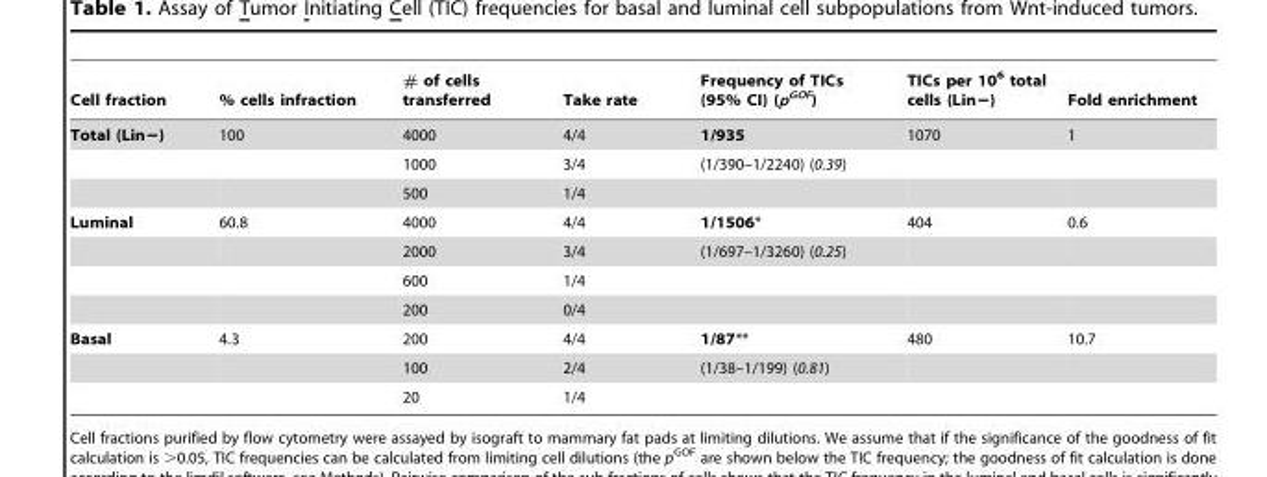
<table><thead><tr><td>Cell fraction</td><td>% cells infraction</td><td># of cells transferred</td><td>Take rate</td><td>Frequency of TICs (95% CI) (p<sup>GOF</sup>)</td><td>TICs per 10<sup>6</sup> total cells (Lin−)</td><td>Fold enrichment</td></tr></thead><tbody><tr><td rowspan="3">Total (Lin−)</td><td>100</td><td>4000</td><td>4/4</td><td>1/935</td><td>1070</td><td>1</td></tr><tr><td></td><td>1000</td><td>3/4</td><td>(1/390–1/2240) (0.39)</td><td></td><td></td></tr><tr><td></td><td>500</td><td>1/4</td><td></td><td></td><td></td></tr><tr><td rowspan="4">Luminal</td><td>60.8</td><td>4000</td><td>4/4</td><td>1/1506*</td><td>404</td><td>0.6</td></tr><tr><td></td><td>2000</td><td>3/4</td><td>(1/697–1/3260) (0.25)</td><td></td><td></td></tr><tr><td></td><td>600</td><td>1/4</td><td></td><td></td><td></td></tr><tr><td></td><td>200</td><td>0/4</td><td></td><td></td><td></td></tr><tr><td rowspan="3">Basal</td><td>4.3</td><td>200</td><td>4/4</td><td>1/87**</td><td>480</td><td>10.7</td></tr><tr><td></td><td>100</td><td>2/4</td><td>(1/38–1/199) (0.81)</td><td></td><td></td></tr><tr><td></td><td>20</td><td>1/4</td><td></td><td></td><td></td></tr></tbody></table>